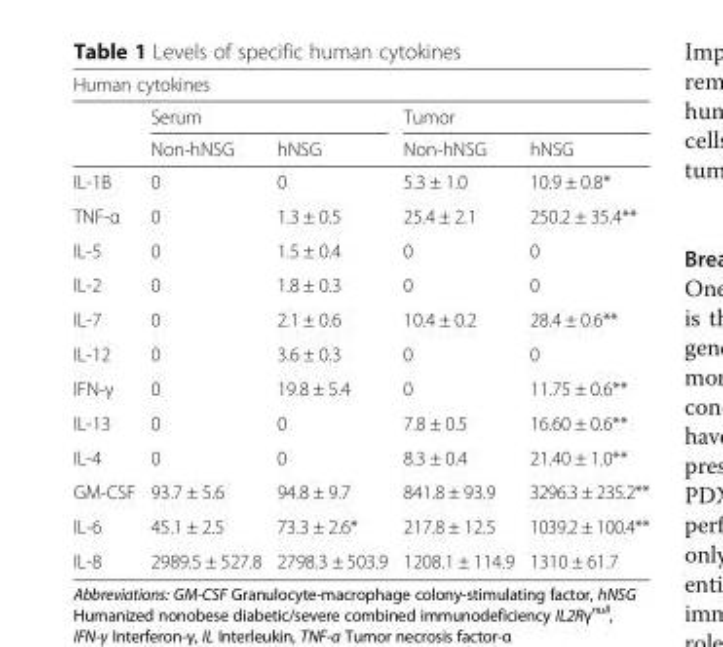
<table><thead><tr><td colspan="5">Human cytokines</td></tr><tr><td rowspan="2"></td><td colspan="2">Serum</td><td colspan="2">Tumor</td></tr><tr><td>Non-hNSG</td><td>hNSG</td><td>Non-hNSG</td><td>hNSG</td></tr></thead><tbody><tr><td>IL-1B</td><td>0</td><td>0</td><td>5.3 ± 1.0</td><td>10.9 ± 0.8*</td></tr><tr><td>TNF-α</td><td>0</td><td>1.3 ± 0.5</td><td>25.4 ± 2.1</td><td>250.2 ± 35.4**</td></tr><tr><td>IL-5</td><td>0</td><td>1.5 ± 0.4</td><td>0</td><td>0</td></tr><tr><td>IL-2</td><td>0</td><td>1.8 ± 0.3</td><td>0</td><td>0</td></tr><tr><td>IL-7</td><td>0</td><td>2.1 ± 0.6</td><td>10.4 ± 0.2</td><td>28.4 ± 0.6**</td></tr><tr><td>IL-12</td><td>0</td><td>3.6 ± 0.3</td><td>0</td><td>0</td></tr><tr><td>IFN-γ</td><td>0</td><td>19.8 ± 5.4</td><td>0</td><td>11.75 ± 0.6**</td></tr><tr><td>IL-13</td><td>0</td><td>0</td><td>7.8 ± 0.5</td><td>16.60 ± 0.6**</td></tr><tr><td>IL-4</td><td>0</td><td>0</td><td>8.3 ± 0.4</td><td>21.40 ± 1.0**</td></tr><tr><td>GM-CSF</td><td>93.7 ± 5.6</td><td>94.8 ± 9.7</td><td>841.8 ± 93.9</td><td>3296.3 ± 235.2**</td></tr><tr><td>IL-6</td><td>45.1 ± 2.5</td><td>73.3 ± 2.6*</td><td>217.8 ± 12.5</td><td>1039.2 ± 100.4**</td></tr><tr><td>IL-8</td><td>2989.5 ± 527.8</td><td>2798.3 ± 503.9</td><td>1208.1 ± 114.9</td><td>1310 ± 61.7</td></tr></tbody></table>